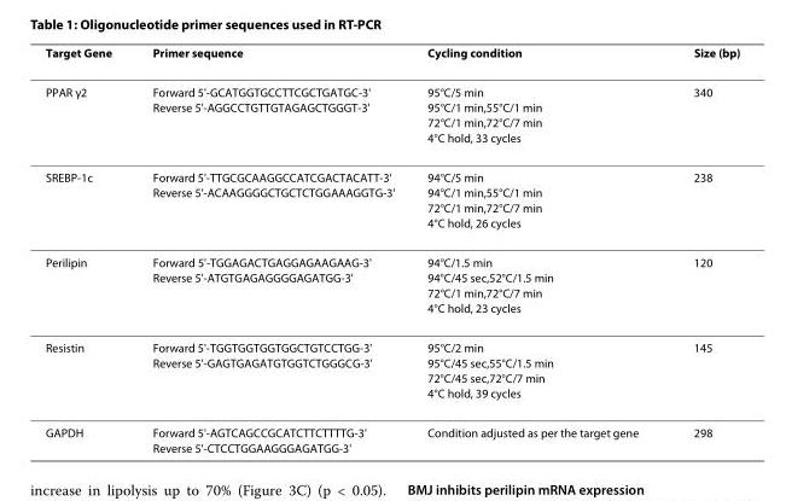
<table><thead><tr><td>Target Gene</td><td>Primer sequence</td><td>Cycling condition</td><td>Size (bp)</td></tr></thead><tbody><tr><td>PPAR γ2</td><td>Forward 5&#x27;-GCATGGTGCCTTCGCTGATGC-3&#x27; Reverse 5&#x27;-AGGCCTGTTGTAGAGCTGGGT-3&#x27;</td><td>95°C/5 min 95°C/1 min,55°C/1 min 72°C/1 min,72°C/7 min 4°C hold, 33 cycles</td><td>340</td></tr><tr><td>SREBP-1c</td><td>Forward 5&#x27;-TTGCGCAAGGCCATCGACTACATT-3&#x27; Reverse 5&#x27;-ACAAGGGGCTGCTCTGGAAAGGTG-3&#x27;</td><td>94°C/5 min 94°C/1 min,55°C/1 min 72°C/1 min,72°C/7 min 4°C hold, 26 cycles</td><td>238</td></tr><tr><td>Perilipin</td><td>Forward 5&#x27;-TGGAGACTGAGGAGAAGAAG-3&#x27; Reverse 5&#x27;-ATGTGAGAGGGGAGATGG-3&#x27;</td><td>94°C/1.5 min 94°C/45 sec,52°C/1.5 min 72°C/1 min,72°C/7 min 4°C hold, 23 cycles</td><td>120</td></tr><tr><td>Resistin</td><td>Forward 5&#x27;-TGGTGGTGGTGGCTGTCCTGG-3&#x27; Reverse 5&#x27;-GAGTGAGATGTGGTCTGGGCG-3&#x27;</td><td>95°C/2 min 95°C/45 sec,55°C/1.5 min 72°C/45 sec,72°C/7 min 4°C hold, 39 cycles</td><td>145</td></tr><tr><td>GAPDH</td><td>Forward 5&#x27;-AGTCAGCCGCATCTTCTTTTG-3&#x27; Reverse 5&#x27;-CTCCTGGAAGGGAGATGG-3&#x27;</td><td>Condition adjusted as per the target gene</td><td>298</td></tr></tbody></table>